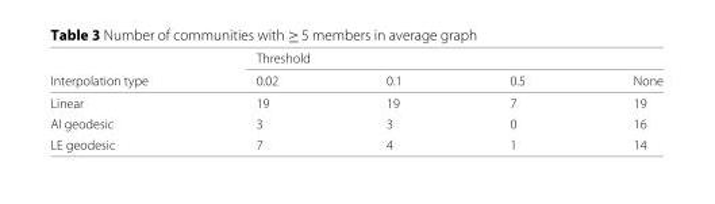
<table><thead><tr><td rowspan="2">Interpolation type</td><td colspan="4">Threshold</td></tr><tr><td>0.02</td><td>0.1</td><td>0.5</td><td>None</td></tr></thead><tbody><tr><td>Linear</td><td>19</td><td>19</td><td>7</td><td>19</td></tr><tr><td>AI geodesic</td><td>3</td><td>3</td><td>0</td><td>16</td></tr><tr><td>LE geodesic</td><td>7</td><td>4</td><td>1</td><td>14</td></tr></tbody></table>